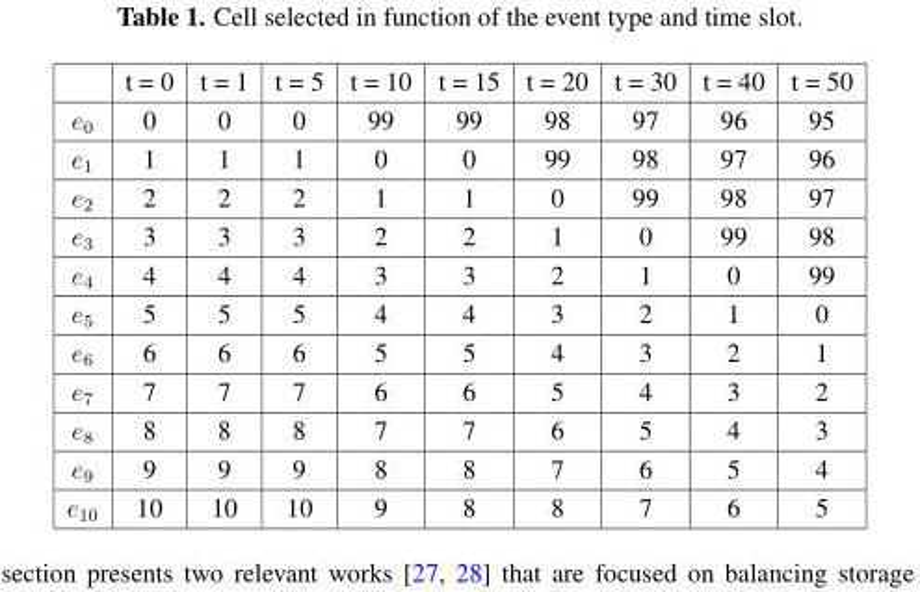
<table><thead><tr><td></td><td>t = 0</td><td>t = 1</td><td>t = 5</td><td>t = 10</td><td>t = 15</td><td>t = 20</td><td>t = 30</td><td>t = 40</td><td>t = 50</td></tr></thead><tbody><tr><td>e<sub>0</sub></td><td>0</td><td>0</td><td>0</td><td>99</td><td>99</td><td>98</td><td>97</td><td>96</td><td>95</td></tr><tr><td>e<sub>1</sub></td><td>1</td><td>1</td><td>1</td><td>0</td><td>0</td><td>99</td><td>98</td><td>97</td><td>96</td></tr><tr><td>e<sub>2</sub></td><td>2</td><td>2</td><td>2</td><td>1</td><td>1</td><td>0</td><td>99</td><td>98</td><td>97</td></tr><tr><td>e<sub>3</sub></td><td>3</td><td>3</td><td>3</td><td>2</td><td>2</td><td>1</td><td>0</td><td>99</td><td>98</td></tr><tr><td>e<sub>4</sub></td><td>4</td><td>4</td><td>4</td><td>3</td><td>3</td><td>2</td><td>1</td><td>0</td><td>99</td></tr><tr><td>e<sub>5</sub></td><td>5</td><td>5</td><td>5</td><td>4</td><td>4</td><td>3</td><td>2</td><td>1</td><td>0</td></tr><tr><td>e<sub>6</sub></td><td>6</td><td>6</td><td>6</td><td>5</td><td>5</td><td>4</td><td>3</td><td>2</td><td>1</td></tr><tr><td>e<sub>7</sub></td><td>7</td><td>7</td><td>7</td><td>6</td><td>6</td><td>5</td><td>4</td><td>3</td><td>2</td></tr><tr><td>e<sub>8</sub></td><td>8</td><td>8</td><td>8</td><td>7</td><td>7</td><td>6</td><td>5</td><td>4</td><td>3</td></tr><tr><td>e<sub>9</sub></td><td>9</td><td>9</td><td>9</td><td>8</td><td>8</td><td>7</td><td>6</td><td>5</td><td>4</td></tr><tr><td>e<sub>10</sub></td><td>10</td><td>10</td><td>10</td><td>9</td><td>8</td><td>8</td><td>7</td><td>6</td><td>5</td></tr></tbody></table>